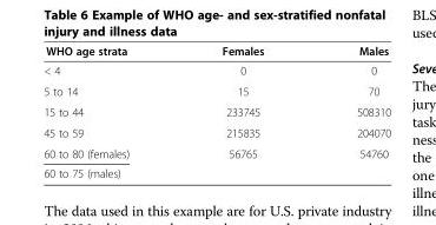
<table><thead><tr><td>WHO age strata</td><td>Females</td><td>Males</td></tr></thead><tbody><tr><td>&lt; 4</td><td>0</td><td>0</td></tr><tr><td>5 to 14</td><td>15</td><td>70</td></tr><tr><td>15 to 44</td><td>233745</td><td>508310</td></tr><tr><td>45 to 59</td><td>215835</td><td>204070</td></tr><tr><td>60 to 80 (females)</td><td>56765</td><td>54760</td></tr><tr><td>60 to 75 (males)</td><td></td><td></td></tr></tbody></table>